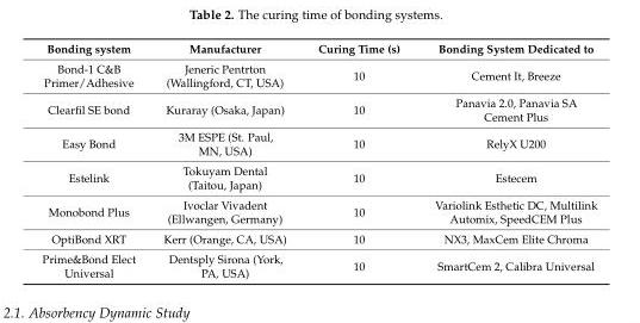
<table><thead><tr><td>Bonding system</td><td>Manufacturer</td><td>Curing Time (s)</td><td>Bonding System Dedicated to</td></tr></thead><tbody><tr><td>Bond-1 C&amp;B Primer/Adhesive</td><td>Jeneric Pentrton (Wallingford, CT, USA)</td><td>10</td><td>Cement It, Breeze</td></tr><tr><td>Clearfil SE bond</td><td>Kuraray (Osaka, Japan)</td><td>10</td><td>Panavia 2.0, Panavia SA Cement Plus</td></tr><tr><td>Easy Bond</td><td>3M ESPE (St. Paul, MN, USA)</td><td>10</td><td>RelyX U200</td></tr><tr><td>Estelink</td><td>Tokuyam Dental (Taitou, Japan)</td><td>10</td><td>Estecem</td></tr><tr><td>Monobond Plus</td><td>Ivoclar Vivadent (Ellwangen, Germany)</td><td>10</td><td>Variolink Esthetic DC, Multilink Automix, SpeedCEM Plus</td></tr><tr><td>OptiBond XRT</td><td>Kerr (Orange, CA, USA)</td><td>10</td><td>NX3, MaxCem Elite Chroma</td></tr><tr><td>Prime&amp;Bond Elect Universal</td><td>Dentsply Sirona (York, PA, USA)</td><td>10</td><td>SmartCem 2, Calibra Universal</td></tr></tbody></table>